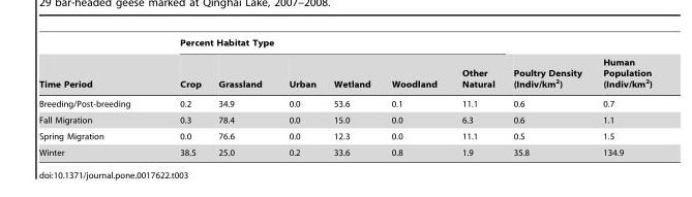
<table><thead><tr><td rowspan="2">Time Period</td><td colspan="6">Percent Habitat Type</td><td rowspan="2">Poultry Density (Indiv/km<sup>2</sup>)</td><td rowspan="2">Human Population (Indiv/km<sup>2</sup>)</td></tr><tr><td>Crop</td><td>Grassland</td><td>Urban</td><td>Wetland</td><td>Woodland</td><td>Other Natural</td></tr></thead><tbody><tr><td>Breeding/Post-breeding</td><td>0.2</td><td>34.9</td><td>0.0</td><td>53.6</td><td>0.1</td><td>11.1</td><td>0.6</td><td>0.7</td></tr><tr><td>Fall Migration</td><td>0.3</td><td>78.4</td><td>0.0</td><td>15.0</td><td>0.0</td><td>6.3</td><td>0.6</td><td>1.1</td></tr><tr><td>Spring Migration</td><td>0.0</td><td>76.6</td><td>0.0</td><td>12.3</td><td>0.0</td><td>11.1</td><td>0.5</td><td>1.5</td></tr><tr><td>Winter</td><td>38.5</td><td>25.0</td><td>0.2</td><td>33.6</td><td>0.8</td><td>1.9</td><td>35.8</td><td>134.9</td></tr></tbody></table>